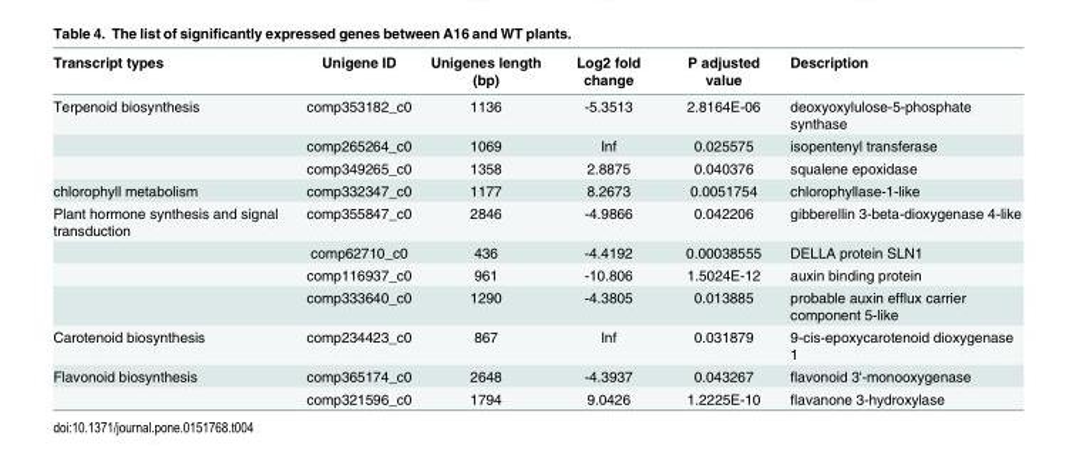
<table><thead><tr><td>Transcript types</td><td>Unigene ID</td><td>Unigenes length (bp)</td><td>Log2 fold change</td><td>P adjusted value</td><td>Description</td></tr></thead><tbody><tr><td rowspan="3">Terpenoid biosynthesis</td><td>comp353182_c0</td><td>1136</td><td>-5.3513</td><td>2.8164E-06</td><td>deoxyoxylulose-5-phosphate synthase</td></tr><tr><td>comp265264_c0</td><td>1069</td><td>Inf</td><td>0.025575</td><td>isopentenyl transferase</td></tr><tr><td>comp349265_c0</td><td>1358</td><td>2.8875</td><td>0.040376</td><td>squalene epoxidase</td></tr><tr><td>chlorophyll metabolism</td><td>comp332347_c0</td><td>1177</td><td>8.2673</td><td>0.0051754</td><td>chlorophyllase-1-like</td></tr><tr><td rowspan="4">Plant hormone synthesis and signal transduction</td><td>comp355847_c0</td><td>2846</td><td>-4.9866</td><td>0.042206</td><td>gibberellin 3-beta-dioxygenase 4-like</td></tr><tr><td>comp62710_c0</td><td>436</td><td>-4.4192</td><td>0.00038555</td><td>DELLA protein SLN1</td></tr><tr><td>comp116937_c0</td><td>961</td><td>-10.806</td><td>1.5024E-12</td><td>auxin binding protein</td></tr><tr><td>comp333640_c0</td><td>1290</td><td>-4.3805</td><td>0.013885</td><td>probable auxin efflux carrier component 5-like</td></tr><tr><td>Carotenoid biosynthesis</td><td>comp234423_c0</td><td>867</td><td>Inf</td><td>0.031879</td><td>9-cis-epoxycarotenoid dioxygenase 1</td></tr><tr><td rowspan="2">Flavonoid biosynthesis</td><td>comp365174_c0</td><td>2648</td><td>-4.3937</td><td>0.043267</td><td>flavonoid 3&#x27;-monooxygenase</td></tr><tr><td>comp321596_c0</td><td>1794</td><td>9.0426</td><td>1.2225E-10</td><td>flavanone 3-hydroxylase</td></tr></tbody></table>